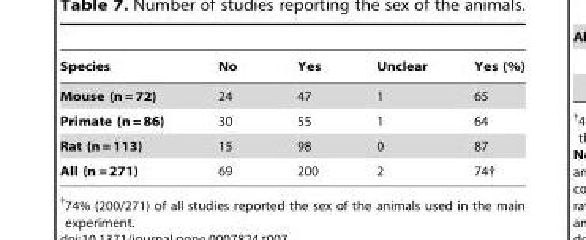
<table><thead><tr><td>Species</td><td>No</td><td>Yes</td><td>Unclear</td><td>Yes (%)</td></tr></thead><tbody><tr><td>Mouse (n = 72)</td><td>24</td><td>47</td><td>1</td><td>65</td></tr><tr><td>Primate (n = 86)</td><td>30</td><td>55</td><td>1</td><td>64</td></tr><tr><td>Rat (n = 113)</td><td>15</td><td>98</td><td>0</td><td>87</td></tr><tr><td>All (n = 271)</td><td>69</td><td>200</td><td>2</td><td>74†</td></tr></tbody></table>